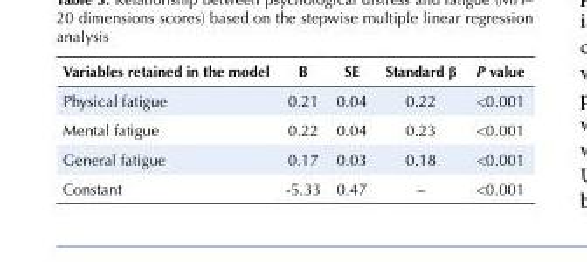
<table><tbody><tr><td>Variables retained in the model</td><td>B</td><td>SE</td><td>Standard β</td><td>P value</td></tr><tr><td>Physical fatigue</td><td>0.21</td><td>0.04</td><td>0.22</td><td>&lt;0.001</td></tr><tr><td>Mental fatigue</td><td>0.22</td><td>0.04</td><td>0.23</td><td>&lt;0.001</td></tr><tr><td>General fatigue</td><td>0.17</td><td>0.03</td><td>0.18</td><td>&lt;0.001</td></tr><tr><td>Constant</td><td>-5.33</td><td>0.47</td><td>–</td><td>&lt;0.001</td></tr></tbody></table>